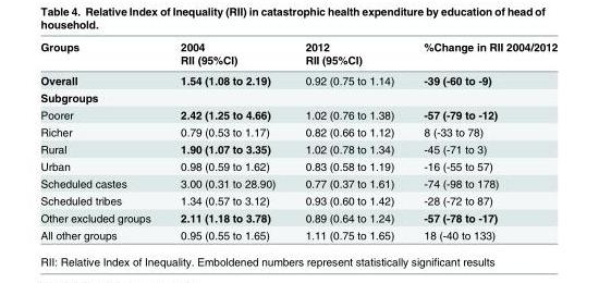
<table><thead><tr><td rowspan="2">Groups</td><td rowspan="2">2004 RII (95%CI)</td><td rowspan="2">2012 RII (95%CI)</td><td rowspan="2">%Change in RII 2004/2012</td></tr><tr></tr></thead><tbody><tr><td>Overall</td><td>1.54 (1.08 to 2.19)</td><td>0.92 (0.75 to 1.14)</td><td>-39 (-60 to -9)</td></tr><tr><td colspan="4">Subgroups</td></tr><tr><td>Poorer</td><td>2.42 (1.25 to 4.66)</td><td>1.02 (0.76 to 1.38)</td><td>-57 (-79 to -12)</td></tr><tr><td>Richer</td><td>0.79 (0.53 to 1.17)</td><td>0.82 (0.66 to 1.12)</td><td>8 (-33 to 78)</td></tr><tr><td>Rural</td><td>1.90 (1.07 to 3.35)</td><td>1.02 (0.78 to 1.34)</td><td>-45 (-71 to 3)</td></tr><tr><td>Urban</td><td>0.98 (0.59 to 1.62)</td><td>0.83 (0.58 to 1.19)</td><td>-16 (-55 to 57)</td></tr><tr><td>Scheduled castes</td><td>3.00 (0.31 to 28.90)</td><td>0.77 (0.37 to 1.61)</td><td>-74 (-98 to 178)</td></tr><tr><td>Scheduled tribes</td><td>1.34 (0.57 to 3.12)</td><td>0.93 (0.60 to 1.42)</td><td>-28 (-72 to 87)</td></tr><tr><td>Other excluded groups</td><td>2.11 (1.18 to 3.78)</td><td>0.89 (0.64 to 1.24)</td><td>-57 (-78 to -17)</td></tr><tr><td>All other groups</td><td>0.95 (0.55 to 1.65)</td><td>1.11 (0.75 to 1.65)</td><td>18 (-40 to 133)</td></tr></tbody></table>